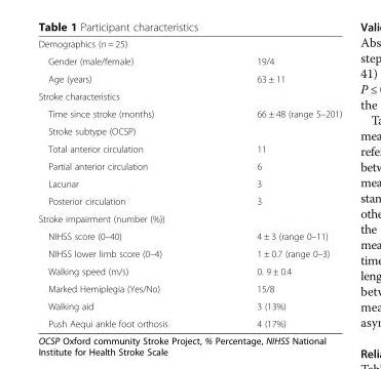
<table><tbody><tr><td colspan="2">Demographics (n = 25)</td></tr><tr><td>Gender (male/female)</td><td>19/4</td></tr><tr><td>Age (years)</td><td>63 ± 11</td></tr><tr><td colspan="2">Stroke characteristics</td></tr><tr><td>Time since stroke (months)</td><td>66 ± 48 (range 5–201)</td></tr><tr><td colspan="2">Stroke subtype (OCSP)</td></tr><tr><td>Total anterior circulation</td><td>11</td></tr><tr><td>Partial anterior circulation</td><td>6</td></tr><tr><td>Lacunar</td><td>3</td></tr><tr><td>Posterior circulation</td><td>3</td></tr><tr><td colspan="2">Stroke impairment (number (%))</td></tr><tr><td>NIHSS score (0–40)</td><td>4 ± 3 (range 0–11)</td></tr><tr><td>NIHSS lower limb score (0–4)</td><td>1 ± 0.7 (range 0–3)</td></tr><tr><td>Walking speed (m/s)</td><td>0. 9 ± 0.4</td></tr><tr><td>Marked Hemiplegia (Yes/No)</td><td>15/8</td></tr><tr><td>Walking aid</td><td>3 (13%)</td></tr><tr><td>Push Aequi ankle foot orthosis</td><td>4 (17%)</td></tr></tbody></table>